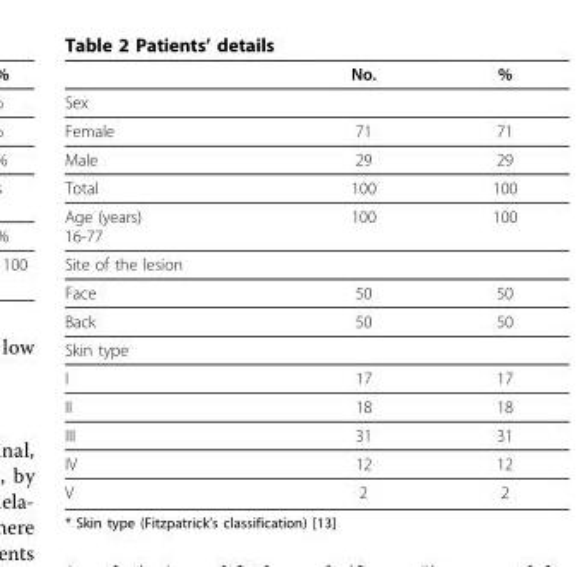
<table><thead><tr><td></td><td>No.</td><td>%</td></tr></thead><tbody><tr><td colspan="3">Sex</td></tr><tr><td>Female</td><td>71</td><td>71</td></tr><tr><td>Male</td><td>29</td><td>29</td></tr><tr><td>Total</td><td>100</td><td>100</td></tr><tr><td>Age (years) 16-77</td><td>100</td><td>100</td></tr><tr><td colspan="3">Site of the lesion</td></tr><tr><td>Face</td><td>50</td><td>50</td></tr><tr><td>Back</td><td>50</td><td>50</td></tr><tr><td colspan="3">Skin type</td></tr><tr><td>I</td><td>17</td><td>17</td></tr><tr><td>II</td><td>18</td><td>18</td></tr><tr><td>III</td><td>31</td><td>31</td></tr><tr><td>IV</td><td>12</td><td>12</td></tr><tr><td>V</td><td>2</td><td>2</td></tr></tbody></table>